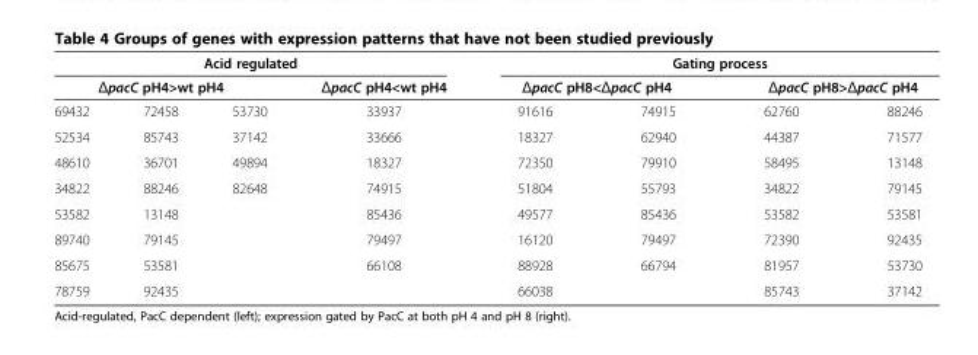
<table><thead><tr><td colspan="4">Acid regulated</td><td colspan="4">Gating process</td></tr><tr><td colspan="3">ΔpacC pH4&gt;wt pH4</td><td rowspan="2">ΔpacC pH4&lt;wt pH4 33937</td><td colspan="2">ΔpacC pH8&lt;ΔpacC pH4</td><td colspan="2">ΔpacC pH8&gt;ΔpacC pH4</td></tr><tr><td>69432</td><td>72458</td><td>53730</td><td>91616</td><td>74915</td><td>62760</td><td>88246</td></tr></thead><tbody><tr><td>52534</td><td>85743</td><td>37142</td><td>33666</td><td>18327</td><td>62940</td><td>44387</td><td>71577</td></tr><tr><td>48610</td><td>36701</td><td>49894</td><td>18327</td><td>72350</td><td>79910</td><td>58495</td><td>13148</td></tr><tr><td>34822</td><td>88246</td><td>82648</td><td>74915</td><td>51804</td><td>55793</td><td>34822</td><td>79145</td></tr><tr><td>53582</td><td>13148</td><td></td><td>85436</td><td>49577</td><td>85436</td><td>53582</td><td>53581</td></tr><tr><td>89740</td><td>79145</td><td></td><td>79497</td><td>16120</td><td>79497</td><td>72390</td><td>92435</td></tr><tr><td>85675</td><td>53581</td><td></td><td>66108</td><td>88928</td><td>66794</td><td>81957</td><td>53730</td></tr><tr><td>78759</td><td>92435</td><td></td><td></td><td>66038</td><td></td><td>85743</td><td>37142</td></tr></tbody></table>